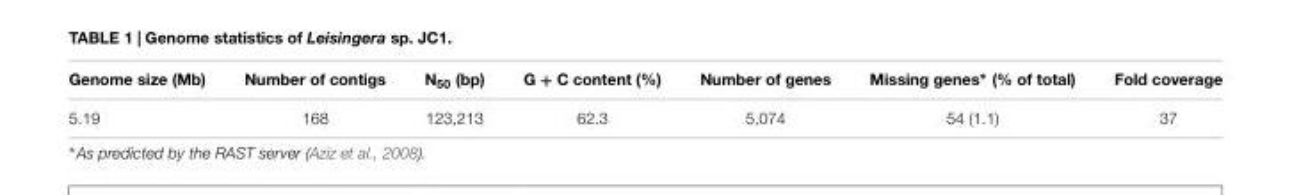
<table><thead><tr><td>Genome size (Mb)</td><td>Number of contigs</td><td>N<sub>50</sub> (bp)</td><td>G + C content (%)</td><td>Number of genes</td><td>Missing genes∗ (% of total)</td><td>Fold coverage</td></tr></thead><tbody><tr><td>5.19</td><td>168</td><td>123,213</td><td>62.3</td><td>5,074</td><td>54 (1.1)</td><td>37</td></tr></tbody></table>